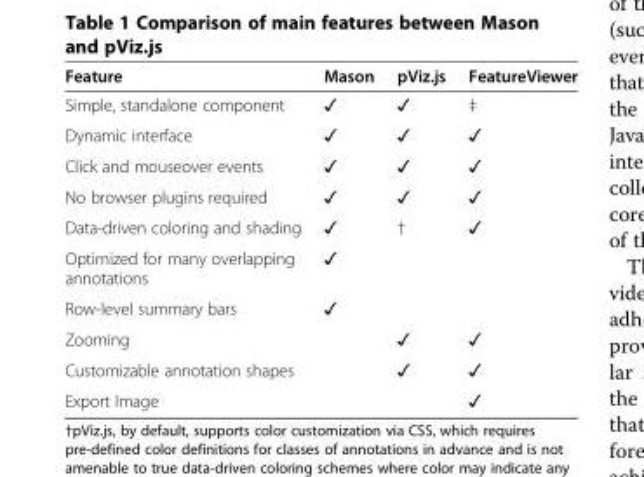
<table><thead><tr><td>Feature</td><td>Mason</td><td>pViz.js</td><td>FeatureViewer</td></tr></thead><tbody><tr><td>Simple, standalone component</td><td>✓</td><td>✓</td><td>‡</td></tr><tr><td>Dynamic interface</td><td>✓</td><td>✓</td><td>✓</td></tr><tr><td>Click and mouseover events</td><td>✓</td><td>✓</td><td>✓</td></tr><tr><td>No browser plugins required</td><td>✓</td><td>✓</td><td>✓</td></tr><tr><td>Data-driven coloring and shading</td><td>✓</td><td>†</td><td>✓</td></tr><tr><td>Optimized for many overlapping annotations</td><td>✓</td><td></td><td></td></tr><tr><td>Row-level summary bars</td><td>✓</td><td></td><td></td></tr><tr><td>Zooming</td><td></td><td>✓</td><td>✓</td></tr><tr><td>Customizable annotation shapes</td><td></td><td>✓</td><td>✓</td></tr><tr><td>Export Image</td><td></td><td></td><td>✓</td></tr></tbody></table>